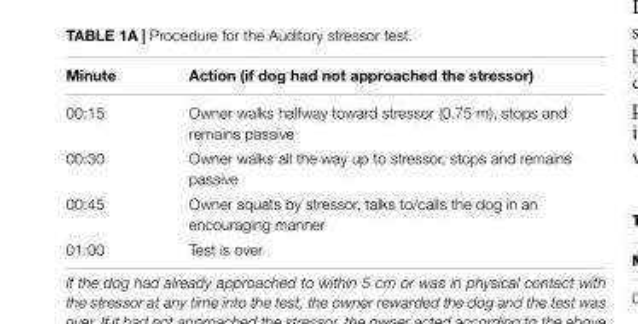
<table><thead><tr><td>Minute</td><td>Action (if dog had not approached the stressor)</td></tr></thead><tbody><tr><td>00:15</td><td>Owner walks halfway toward stressor (0.75 m), stops and remains passive</td></tr><tr><td>00:30</td><td>Owner walks all the way up to stressor, stops and remains passive</td></tr><tr><td>00:45</td><td>Owner squats by stressor, talks to/calls the dog in an encouraging manner</td></tr><tr><td>01:00</td><td>Test is over</td></tr></tbody></table>